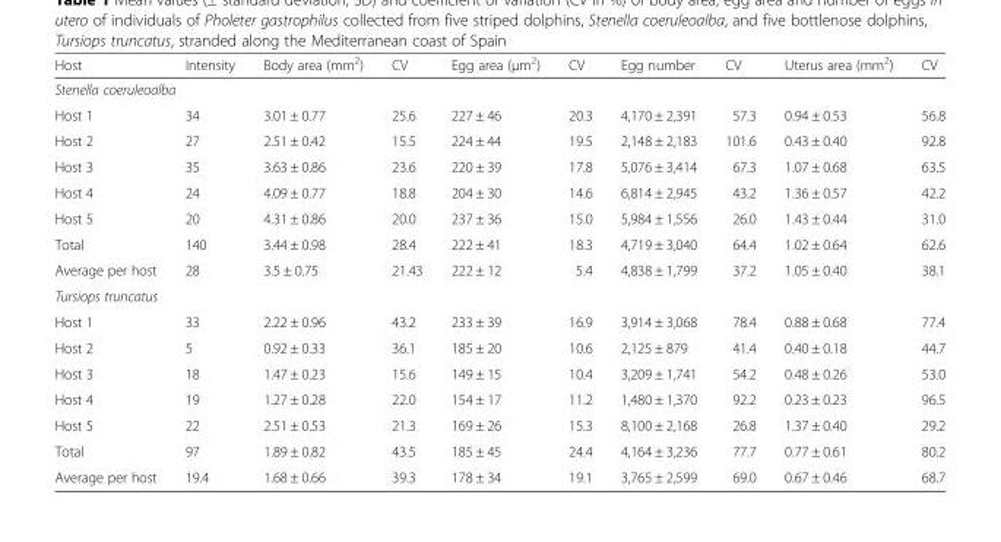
<table><thead><tr><td>Host</td><td>Intensity</td><td>Body area (mm<sup>2</sup>)</td><td>CV</td><td>Egg area (μm<sup>2</sup>)</td><td>CV</td><td>Egg number</td><td>CV</td><td>Uterus area (mm<sup>2</sup>)</td><td>CV</td></tr></thead><tbody><tr><td colspan="10">Stenella coeruleoalba</td></tr><tr><td>Host 1</td><td>34</td><td>3.01 ± 0.77</td><td>25.6</td><td>227 ± 46</td><td>20.3</td><td>4,170 ± 2,391</td><td>57.3</td><td>0.94 ± 0.53</td><td>56.8</td></tr><tr><td>Host 2</td><td>27</td><td>2.51 ± 0.42</td><td>15.5</td><td>224 ± 44</td><td>19.5</td><td>2,148 ± 2,183</td><td>101.6</td><td>0.43 ± 0.40</td><td>92.8</td></tr><tr><td>Host 3</td><td>35</td><td>3.63 ± 0.86</td><td>23.6</td><td>220 ± 39</td><td>17.8</td><td>5,076 ± 3,414</td><td>67.3</td><td>1.07 ± 0.68</td><td>63.5</td></tr><tr><td>Host 4</td><td>24</td><td>4.09 ± 0.77</td><td>18.8</td><td>204 ± 30</td><td>14.6</td><td>6,814 ± 2,945</td><td>43.2</td><td>1.36 ± 0.57</td><td>42.2</td></tr><tr><td>Host 5</td><td>20</td><td>4.31 ± 0.86</td><td>20.0</td><td>237 ± 36</td><td>15.0</td><td>5,984 ± 1,556</td><td>26.0</td><td>1.43 ± 0.44</td><td>31.0</td></tr><tr><td>Total</td><td>140</td><td>3.44 ± 0.98</td><td>28.4</td><td>222 ± 41</td><td>18.3</td><td>4,719 ± 3,040</td><td>64.4</td><td>1.02 ± 0.64</td><td>62.6</td></tr><tr><td>Average per host</td><td>28</td><td>3.5 ± 0.75</td><td>21.43</td><td>222 ± 12</td><td>5.4</td><td>4,838 ± 1,799</td><td>37.2</td><td>1.05 ± 0.40</td><td>38.1</td></tr><tr><td colspan="10">Tursiops truncatus</td></tr><tr><td>Host 1</td><td>33</td><td>2.22 ± 0.96</td><td>43.2</td><td>233 ± 39</td><td>16.9</td><td>3,914 ± 3,068</td><td>78.4</td><td>0.88 ± 0.68</td><td>77.4</td></tr><tr><td>Host 2</td><td>5</td><td>0.92 ± 0.33</td><td>36.1</td><td>185 ± 20</td><td>10.6</td><td>2,125 ± 879</td><td>41.4</td><td>0.40 ± 0.18</td><td>44.7</td></tr><tr><td>Host 3</td><td>18</td><td>1.47 ± 0.23</td><td>15.6</td><td>149 ± 15</td><td>10.4</td><td>3,209 ± 1,741</td><td>54.2</td><td>0.48 ± 0.26</td><td>53.0</td></tr><tr><td>Host 4</td><td>19</td><td>1.27 ± 0.28</td><td>22.0</td><td>154 ± 17</td><td>11.2</td><td>1,480 ± 1,370</td><td>92.2</td><td>0.23 ± 0.23</td><td>96.5</td></tr><tr><td>Host 5</td><td>22</td><td>2.51 ± 0.53</td><td>21.3</td><td>169 ± 26</td><td>15.3</td><td>8,100 ± 2,168</td><td>26.8</td><td>1.37 ± 0.40</td><td>29.2</td></tr><tr><td>Total</td><td>97</td><td>1.89 ± 0.82</td><td>43.5</td><td>185 ± 45</td><td>24.4</td><td>4,164 ± 3,236</td><td>77.7</td><td>0.77 ± 0.61</td><td>80.2</td></tr><tr><td>Average per host</td><td>19.4</td><td>1.68 ± 0.66</td><td>39.3</td><td>178 ± 34</td><td>19.1</td><td>3,765 ± 2,599</td><td>69.0</td><td>0.67 ± 0.46</td><td>68.7</td></tr></tbody></table>